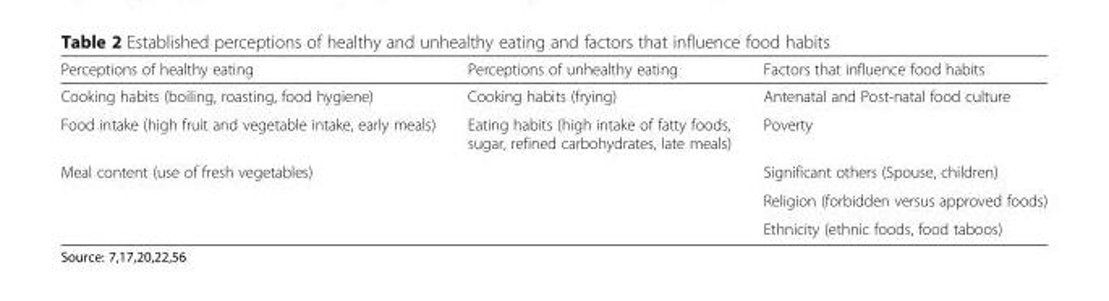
<table><thead><tr><td>Perceptions of healthy eating</td><td>Perceptions of unhealthy eating</td><td>Factors that influence food habits</td></tr></thead><tbody><tr><td>Cooking habits (boiling, roasting, food hygiene)</td><td>Cooking habits (frying)</td><td>Antenatal and Post-natal food culture</td></tr><tr><td>Food intake (high fruit and vegetable intake, early meals)</td><td>Eating habits (high intake of fatty foods, sugar, refined carbohydrates, late meals)</td><td>Poverty</td></tr><tr><td rowspan="3">Meal content (use of fresh vegetables)</td><td rowspan="3"></td><td>Significant others (Spouse, children)</td></tr><tr><td>Religion (forbidden versus approved foods)</td></tr><tr><td>Ethnicity (ethnic foods, food taboos)</td></tr></tbody></table>